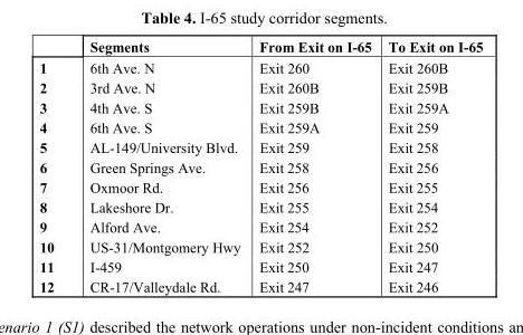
<table><thead><tr><td></td><td>Segments</td><td>From Exit on I-65</td><td>To Exit on I-65</td></tr></thead><tbody><tr><td>1</td><td>6th Ave. N</td><td>Exit 260</td><td>Exit 260B</td></tr><tr><td>2</td><td>3rd Ave. N</td><td>Exit 260B</td><td>Exit 259B</td></tr><tr><td>3</td><td>4th Ave. S</td><td>Exit 259B</td><td>Exit 259A</td></tr><tr><td>4</td><td>6th Ave. S</td><td>Exit 259A</td><td>Exit 259</td></tr><tr><td>5</td><td>AL-149/University Blvd.</td><td>Exit 259</td><td>Exit 258</td></tr><tr><td>6</td><td>Green Springs Ave.</td><td>Exit 258</td><td>Exit 256</td></tr><tr><td>7</td><td>Oxmoor Rd.</td><td>Exit 256</td><td>Exit 255</td></tr><tr><td>8</td><td>Lakeshore Dr.</td><td>Exit 255</td><td>Exit 254</td></tr><tr><td>9</td><td>Alford Ave.</td><td>Exit 254</td><td>Exit 252</td></tr><tr><td>10</td><td>US-31/Montgomery Hwy</td><td>Exit 252</td><td>Exit 250</td></tr><tr><td>11</td><td>I-459</td><td>Exit 250</td><td>Exit 247</td></tr><tr><td>12</td><td>CR-17/Valleydale Rd.</td><td>Exit 247</td><td>Exit 246</td></tr></tbody></table>